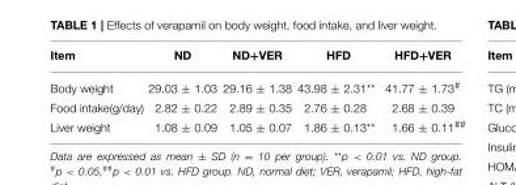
<table><thead><tr><td>Item</td><td>ND</td><td>ND+VER</td><td>HFD</td><td>HFD+VER</td></tr></thead><tbody><tr><td>Body weight</td><td>29.03 ± 1.03</td><td>29.16 ± 1.38</td><td>43.98 ± 2.31**</td><td>41.77 ± 1.73<sup>#</sup></td></tr><tr><td>Food intake(g/day)</td><td>2.82 ± 0.22</td><td>2.89 ± 0.35</td><td>2.76 ± 0.28</td><td>2.68 ± 0.39</td></tr><tr><td>Liver weight</td><td>1.08 ± 0.09</td><td>1.05 ± 0.07</td><td>1.86 ± 0.13**</td><td>1.66 ± 0.11<sup>##</sup></td></tr></tbody></table>